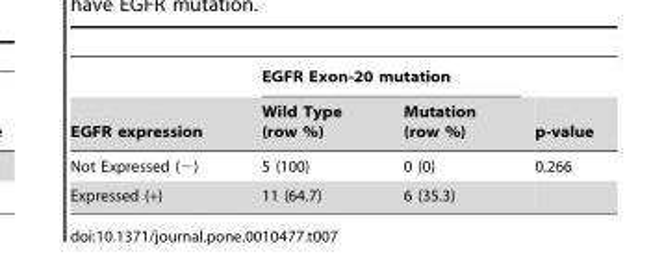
<table><thead><tr><td rowspan="2">EGFR expression</td><td colspan="2">EGFR Exon-20 mutation</td><td rowspan="2">p-value</td></tr><tr><td>Wild Type (row %)</td><td>Mutation (row %)</td></tr></thead><tbody><tr><td>Not Expressed (−)</td><td>5 (100)</td><td>0 (0)</td><td>0.266</td></tr><tr><td>Expressed (+)</td><td>11 (64.7)</td><td>6 (35.3)</td><td></td></tr></tbody></table>